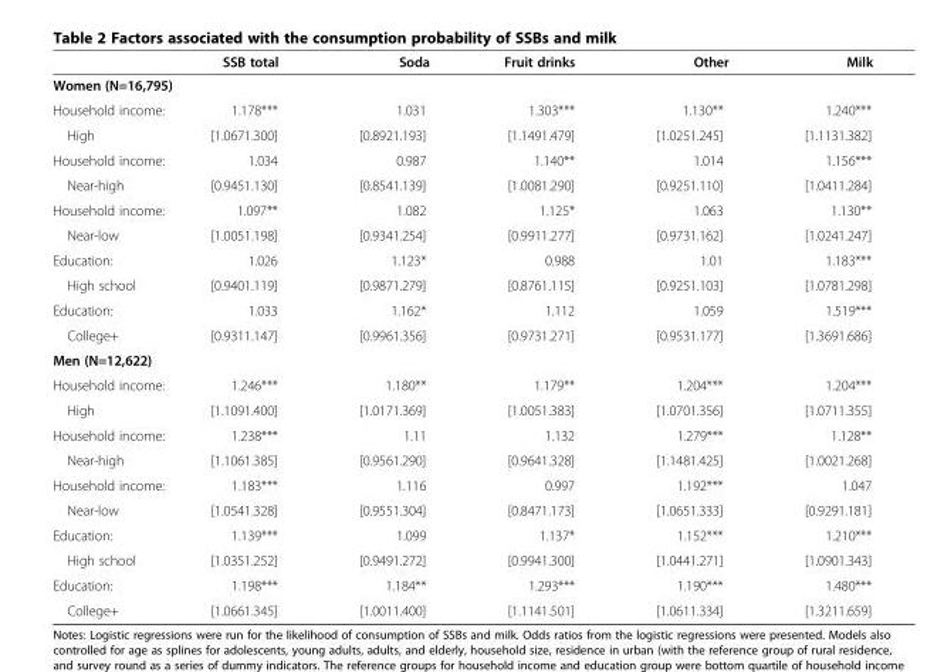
<table><thead><tr><td></td><td>SSB total</td><td>Soda</td><td>Fruit drinks</td><td>Other</td><td>Milk</td></tr></thead><tbody><tr><td colspan="6">Women (N=16,795)</td></tr><tr><td>Household income:</td><td>1.178***</td><td>1.031</td><td>1.303***</td><td>1.130**</td><td>1.240***</td></tr><tr><td>High</td><td>[1.0671.300]</td><td>[0.8921.193]</td><td>[1.1491.479]</td><td>[1.0251.245]</td><td>[1.1131.382]</td></tr><tr><td>Household income:</td><td>1.034</td><td>0.987</td><td>1.140**</td><td>1.014</td><td>1.156***</td></tr><tr><td>Near-high</td><td>[0.9451.130]</td><td>[0.8541.139]</td><td>[1.0081.290]</td><td>[0.9251.110]</td><td>[1.0411.284]</td></tr><tr><td>Household income:</td><td>1.097**</td><td>1.082</td><td>1.125*</td><td>1.063</td><td>1.130**</td></tr><tr><td>Near-low</td><td>[1.0051.198]</td><td>[0.9341.254]</td><td>[0.9911.277]</td><td>[0.9731.162]</td><td>[1.0241.247]</td></tr><tr><td>Education:</td><td>1.026</td><td>1.123*</td><td>0.988</td><td>1.01</td><td>1.183***</td></tr><tr><td>High school</td><td>[0.9401.119]</td><td>[0.9871.279]</td><td>[0.8761.115]</td><td>[0.9251.103]</td><td>[1.0781.298]</td></tr><tr><td>Education:</td><td>1.033</td><td>1.162*</td><td>1.112</td><td>1.059</td><td>1.519***</td></tr><tr><td>College+</td><td>[0.9311.147]</td><td>[0.9961.356]</td><td>[0.9731.271]</td><td>[0.9531.177]</td><td>[1.3691.686]</td></tr><tr><td colspan="6">Men (N=12,622)</td></tr><tr><td>Household income:</td><td>1.246***</td><td>1.180**</td><td>1.179**</td><td>1.204***</td><td>1.204***</td></tr><tr><td>High</td><td>[1.1091.400]</td><td>[1.0171.369]</td><td>[1.0051.383]</td><td>[1.0701.356]</td><td>[1.0711.355]</td></tr><tr><td>Household income:</td><td>1.238***</td><td>1.11</td><td>1.132</td><td>1.279***</td><td>1.128**</td></tr><tr><td>Near-high</td><td>[1.1061.385]</td><td>[0.9561.290]</td><td>[0.9641.328]</td><td>[1.1481.425]</td><td>[1.0021.268]</td></tr><tr><td>Household income:</td><td>1.183***</td><td>1.116</td><td>0.997</td><td>1.192***</td><td>1.047</td></tr><tr><td>Near-low</td><td>[1.0541.328]</td><td>[0.9551.304]</td><td>[0.8471.173]</td><td>[1.0651.333]</td><td>[0.9291.181]</td></tr><tr><td>Education:</td><td>1.139***</td><td>1.099</td><td>1.137*</td><td>1.152***</td><td>1.210***</td></tr><tr><td>High school</td><td>[1.0351.252]</td><td>[0.9491.272]</td><td>[0.9941.300]</td><td>[1.0441.271]</td><td>[1.0901.343]</td></tr><tr><td>Education:</td><td>1.198***</td><td>1.184**</td><td>1.293***</td><td>1.190***</td><td>1.480***</td></tr><tr><td>College+</td><td>[1.0661.345]</td><td>[1.0011.400]</td><td>[1.1141.501]</td><td>[1.0611.334]</td><td>[1.3211.659]</td></tr></tbody></table>